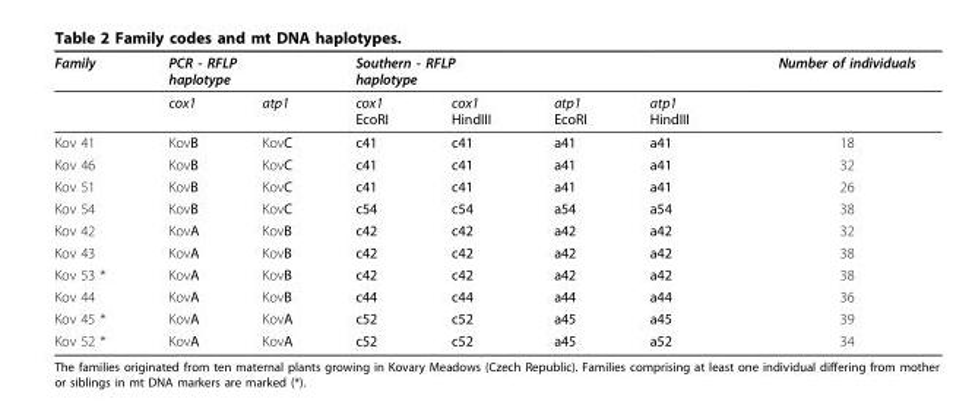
<table><thead><tr><td rowspan="2">Family</td><td colspan="2">PCR - RFLP haplotype</td><td colspan="4">Southern - RFLP haplotype</td><td rowspan="2">Number of individuals</td></tr><tr><td>cox1</td><td>atp1</td><td>cox1 EcoRI</td><td>cox1 HindIII</td><td>atp1 EcoRI</td><td>atp1 HindIII</td></tr></thead><tbody><tr><td>Kov 41</td><td>KovB</td><td>KovC</td><td>c41</td><td>c41</td><td>a41</td><td>a41</td><td>18</td></tr><tr><td>Kov 46</td><td>KovB</td><td>KovC</td><td>c41</td><td>c41</td><td>a41</td><td>a41</td><td>32</td></tr><tr><td>Kov 51</td><td>KovB</td><td>KovC</td><td>c41</td><td>c41</td><td>a41</td><td>a41</td><td>26</td></tr><tr><td>Kov 54</td><td>KovB</td><td>KovC</td><td>c54</td><td>c54</td><td>a54</td><td>a54</td><td>38</td></tr><tr><td>Kov 42</td><td>KovA</td><td>KovB</td><td>c42</td><td>c42</td><td>a42</td><td>a42</td><td>32</td></tr><tr><td>Kov 43</td><td>KovA</td><td>KovB</td><td>c42</td><td>c42</td><td>a42</td><td>a42</td><td>38</td></tr><tr><td>Kov 53 *</td><td>KovA</td><td>KovB</td><td>c42</td><td>c42</td><td>a42</td><td>a42</td><td>38</td></tr><tr><td>Kov 44</td><td>KovA</td><td>KovB</td><td>c44</td><td>c44</td><td>a44</td><td>a44</td><td>36</td></tr><tr><td>Kov 45 *</td><td>KovA</td><td>KovA</td><td>c52</td><td>c52</td><td>a45</td><td>a45</td><td>39</td></tr><tr><td>Kov 52 *</td><td>KovA</td><td>KovA</td><td>c52</td><td>c52</td><td>a45</td><td>a52</td><td>34</td></tr></tbody></table>